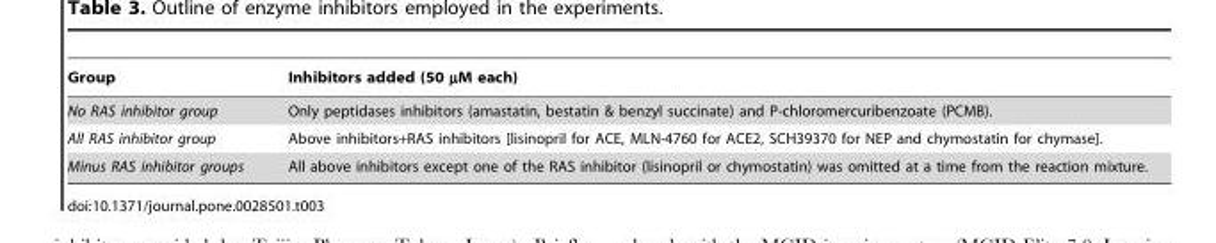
<table><thead><tr><td>Group</td><td>Inhibitors added (50 µM each)</td></tr></thead><tbody><tr><td>No RAS inhibitor group</td><td>Only peptidases inhibitors (amastatin, bestatin &amp; benzyl succinate) and P-chloromercuribenzoate (PCMB).</td></tr><tr><td>All RAS inhibitor group</td><td>Above inhibitors+RAS inhibitors [lisinopril for ACE, MLN-4760 for ACE2, SCH39370 for NEP and chymostatin for chymase].</td></tr><tr><td>Minus RAS inhibitor groups</td><td>All above inhibitors except one of the RAS inhibitor (lisinopril or chymostatin) was omitted at a time from the reaction mixture.</td></tr></tbody></table>